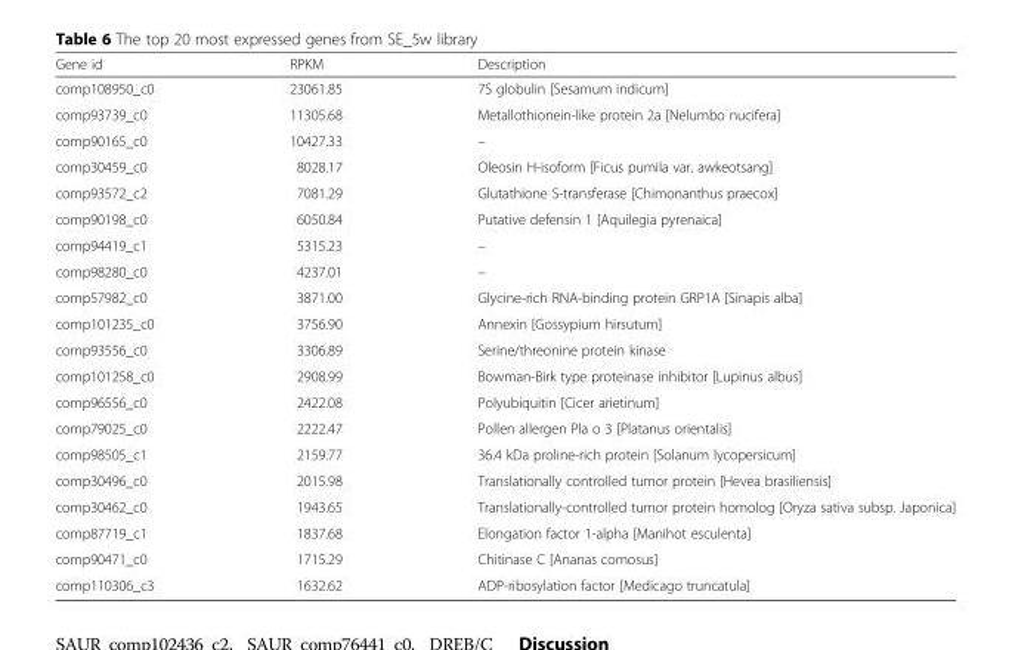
<table><thead><tr><td>Gene id</td><td>RPKM</td><td>Description</td></tr></thead><tbody><tr><td>comp108950_c0</td><td>23061.85</td><td>7S globulin [Sesamum indicum]</td></tr><tr><td>comp93739_c0</td><td>11305.68</td><td>Metallothionein-like protein 2a [Nelumbo nucifera]</td></tr><tr><td>comp90165_c0</td><td>10427.33</td><td>–</td></tr><tr><td>comp30459_c0</td><td>8028.17</td><td>Oleosin H-isoform [Ficus pumila var. awkeotsang]</td></tr><tr><td>comp93572_c2</td><td>7081.29</td><td>Glutathione S-transferase [Chimonanthus praecox]</td></tr><tr><td>comp90198_c0</td><td>6050.84</td><td>Putative defensin 1 [Aquilegia pyrenaica]</td></tr><tr><td>comp94419_c1</td><td>5315.23</td><td>–</td></tr><tr><td>comp98280_c0</td><td>4237.01</td><td>–</td></tr><tr><td>comp57982_c0</td><td>3871.00</td><td>Glycine-rich RNA-binding protein GRP1A [Sinapis alba]</td></tr><tr><td>comp101235_c0</td><td>3756.90</td><td>Annexin [Gossypium hirsutum]</td></tr><tr><td>comp93556_c0</td><td>3306.89</td><td>Serine/threonine protein kinase</td></tr><tr><td>comp101258_c0</td><td>2908.99</td><td>Bowman-Birk type proteinase inhibitor [Lupinus albus]</td></tr><tr><td>comp96556_c0</td><td>2422.08</td><td>Polyubiquitin [Cicer arietinum]</td></tr><tr><td>comp79025_c0</td><td>2222.47</td><td>Pollen allergen Pla o 3 [Platanus orientalis]</td></tr><tr><td>comp98505_c1</td><td>2159.77</td><td>36.4 kDa proline-rich protein [Solanum lycopersicum]</td></tr><tr><td>comp30496_c0</td><td>2015.98</td><td>Translationally controlled tumor protein [Hevea brasiliensis]</td></tr><tr><td>comp30462_c0</td><td>1943.65</td><td>Translationally-controlled tumor protein homolog [Oryza sativa subsp. Japonica]</td></tr><tr><td>comp87719_c1</td><td>1837.68</td><td>Elongation factor 1-alpha [Manihot esculenta]</td></tr><tr><td>comp90471_c0</td><td>1715.29</td><td>Chitinase C [Ananas comosus]</td></tr><tr><td>comp110306_c3</td><td>1632.62</td><td>ADP-ribosylation factor [Medicago truncatula]</td></tr></tbody></table>